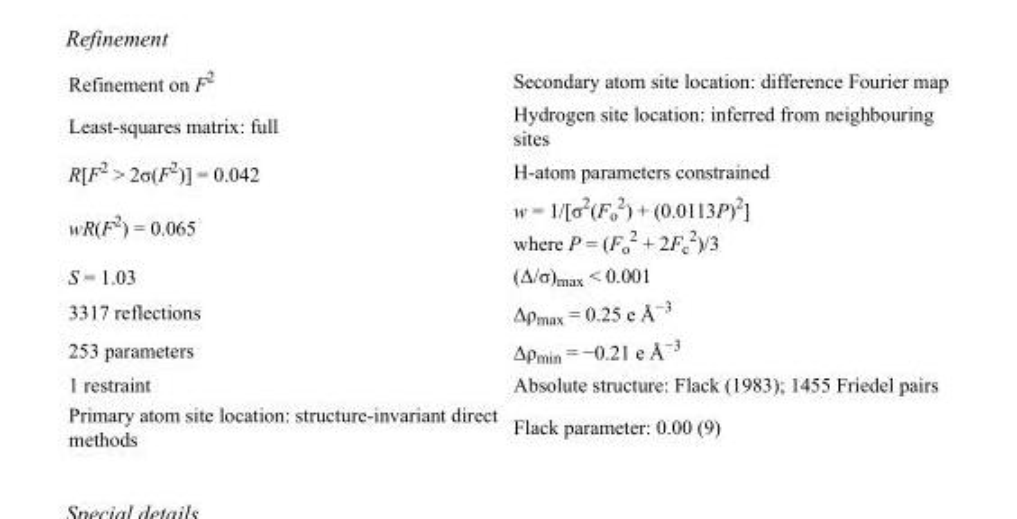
<table><tbody><tr><td>Refinement on F<sup>2</sup></td><td>Secondary atom site location: difference Fourier map</td></tr><tr><td>Least-squares matrix: full</td><td>Hydrogen site location: inferred from neighbouring sites</td></tr><tr><td>R[F<sup>2</sup> &gt; 2σ(F<sup>2</sup>)] = 0.042</td><td>H-atom parameters constrained</td></tr><tr><td>wR(F<sup>2</sup>) = 0.065</td><td>w = 1/[σ<sup>2</sup>(F<sub>o</sub> <sup>2</sup>) + (0.0113P)<sup>2</sup>] where P = (F<sub>o</sub> <sup>2</sup> + 2F<sub>c</sub> <sup>2</sup>)/3</td></tr><tr><td>S = 1.03</td><td>(Δ/σ)<sub>max</sub> &lt; 0.001</td></tr><tr><td>3317 reflections</td><td>Δρ<sub>max</sub> = 0.25 e Å<sup>−3</sup></td></tr><tr><td>253 parameters</td><td>Δρ<sub>min</sub> = −0.21 e Å<sup>−3</sup></td></tr><tr><td>1 restraint</td><td>Absolute structure: Flack (1983); 1455 Friedel pairs</td></tr><tr><td>Primary atom site location: structure-invariant direct methods</td><td>Flack parameter: 0.00 (9)</td></tr></tbody></table>